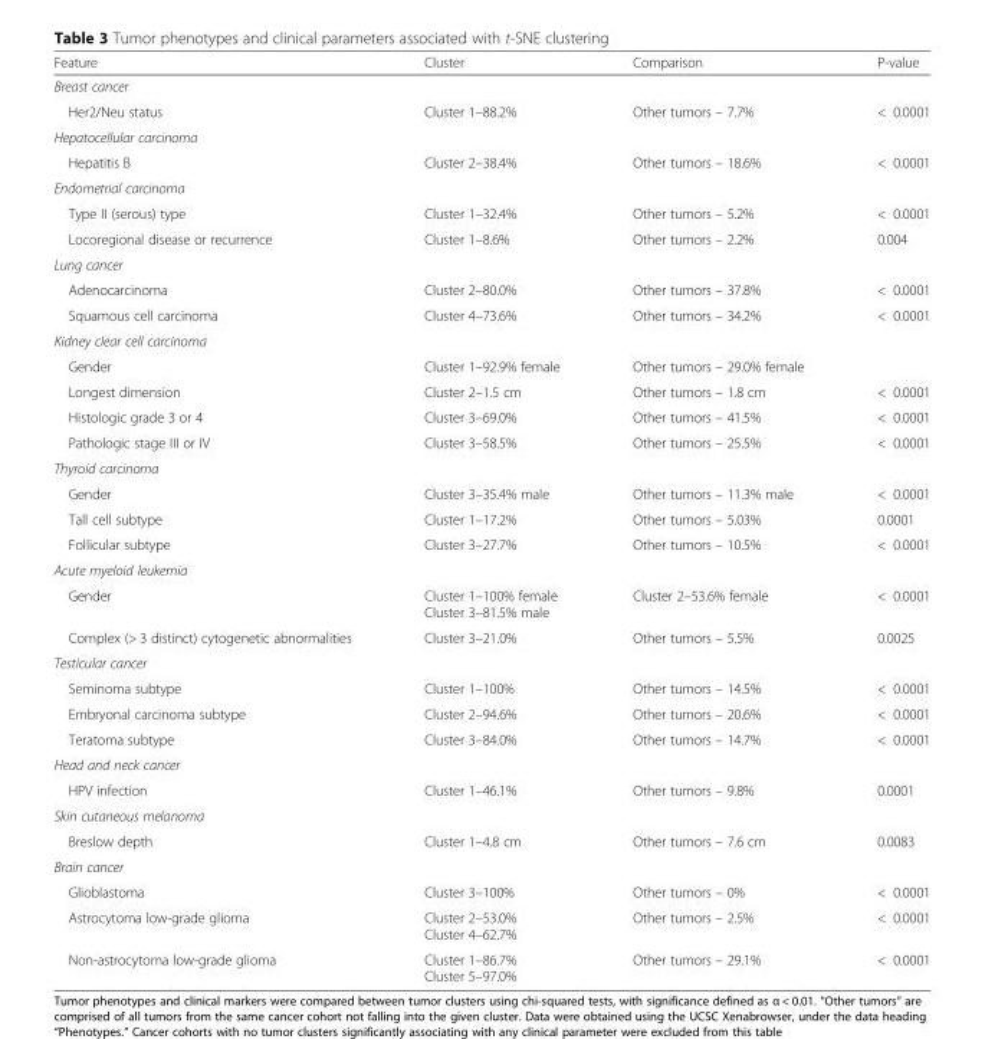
<table><thead><tr><td>Feature</td><td>Cluster</td><td>Comparison</td><td>P-value</td></tr></thead><tbody><tr><td colspan="4">Breast cancer</td></tr><tr><td>Her2/Neu status</td><td>Cluster 1–88.2%</td><td>Other tumors – 7.7%</td><td>&lt; 0.0001</td></tr><tr><td colspan="4">Hepatocellular carcinoma</td></tr><tr><td>Hepatitis B</td><td>Cluster 2–38.4%</td><td>Other tumors – 18.6%</td><td>&lt; 0.0001</td></tr><tr><td colspan="4">Endometrial carcinoma</td></tr><tr><td>Type II (serous) type</td><td>Cluster 1–32.4%</td><td>Other tumors – 5.2%</td><td>&lt; 0.0001</td></tr><tr><td>Locoregional disease or recurrence</td><td>Cluster 1–8.6%</td><td>Other tumors – 2.2%</td><td>0.004</td></tr><tr><td colspan="4">Lung cancer</td></tr><tr><td>Adenocarcinoma</td><td>Cluster 2–80.0%</td><td>Other tumors – 37.8%</td><td>&lt; 0.0001</td></tr><tr><td>Squamous cell carcinoma</td><td>Cluster 4–73.6%</td><td>Other tumors – 34.2%</td><td>&lt; 0.0001</td></tr><tr><td colspan="4">Kidney clear cell carcinoma</td></tr><tr><td>Gender</td><td>Cluster 1–92.9% female</td><td>Other tumors – 29.0% female</td><td></td></tr><tr><td>Longest dimension</td><td>Cluster 2–1.5 cm</td><td>Other tumors – 1.8 cm</td><td>&lt; 0.0001</td></tr><tr><td>Histologic grade 3 or 4</td><td>Cluster 3–69.0%</td><td>Other tumors – 41.5%</td><td>&lt; 0.0001</td></tr><tr><td>Pathologic stage III or IV</td><td>Cluster 3–58.5%</td><td>Other tumors – 25.5%</td><td>&lt; 0.0001</td></tr><tr><td colspan="4">Thyroid carcinoma</td></tr><tr><td>Gender</td><td>Cluster 3–35.4% male</td><td>Other tumors – 11.3% male</td><td>&lt; 0.0001</td></tr><tr><td>Tall cell subtype</td><td>Cluster 1–17.2%</td><td>Other tumors – 5.03%</td><td>0.0001</td></tr><tr><td>Follicular subtype</td><td>Cluster 3–27.7%</td><td>Other tumors – 10.5%</td><td>&lt; 0.0001</td></tr><tr><td colspan="4">Acute myeloid leukemia</td></tr><tr><td>Gender</td><td>Cluster 1–100% female Cluster 3–81.5% male</td><td>Cluster 2–53.6% female</td><td>&lt; 0.0001</td></tr><tr><td>Complex (&gt; 3 distinct) cytogenetic abnormalities</td><td>Cluster 3–21.0%</td><td>Other tumors – 5.5%</td><td>0.0025</td></tr><tr><td colspan="4">Testicular cancer</td></tr><tr><td>Seminoma subtype</td><td>Cluster 1–100%</td><td>Other tumors – 14.5%</td><td>&lt; 0.0001</td></tr><tr><td>Embryonal carcinoma subtype</td><td>Cluster 2–94.6%</td><td>Other tumors – 20.6%</td><td>&lt; 0.0001</td></tr><tr><td>Teratoma subtype</td><td>Cluster 3–84.0%</td><td>Other tumors – 14.7%</td><td>&lt; 0.0001</td></tr><tr><td colspan="4">Head and neck cancer</td></tr><tr><td>HPV infection</td><td>Cluster 1–46.1%</td><td>Other tumors – 9.8%</td><td>0.0001</td></tr><tr><td colspan="4">Skin cutaneous melanoma</td></tr><tr><td>Breslow depth</td><td>Cluster 1–4.8 cm</td><td>Other tumors – 7.6 cm</td><td>0.0083</td></tr><tr><td colspan="4">Brain cancer</td></tr><tr><td>Glioblastoma</td><td>Cluster 3–100%</td><td>Other tumors – 0%</td><td>&lt; 0.0001</td></tr><tr><td>Astrocytoma low-grade glioma</td><td>Cluster 2–53.0% Cluster 4–62.7%</td><td>Other tumors – 2.5%</td><td>&lt; 0.0001</td></tr><tr><td>Non-astrocytoma low-grade glioma</td><td>Cluster 1–86.7% Cluster 5–97.0%</td><td>Other tumors – 29.1%</td><td>&lt; 0.0001</td></tr></tbody></table>